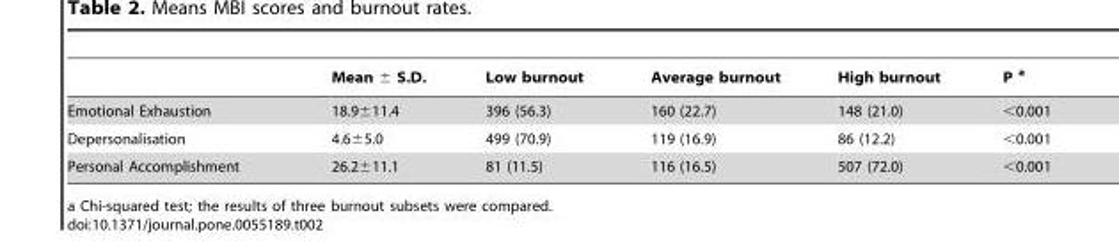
<table><thead><tr><td></td><td>Mean ± S.D.</td><td>Low burnout</td><td>Average burnout</td><td>High burnout</td><td>P <sup>a</sup></td></tr></thead><tbody><tr><td>Emotional Exhaustion</td><td>18.9±11.4</td><td>396 (56.3)</td><td>160 (22.7)</td><td>148 (21.0)</td><td>&lt;0.001</td></tr><tr><td>Depersonalisation</td><td>4.6±5.0</td><td>499 (70.9)</td><td>119 (16.9)</td><td>86 (12.2)</td><td>&lt;0.001</td></tr><tr><td>Personal Accomplishment</td><td>26.2±11.1</td><td>81 (11.5)</td><td>116 (16.5)</td><td>507 (72.0)</td><td>&lt;0.001</td></tr></tbody></table>